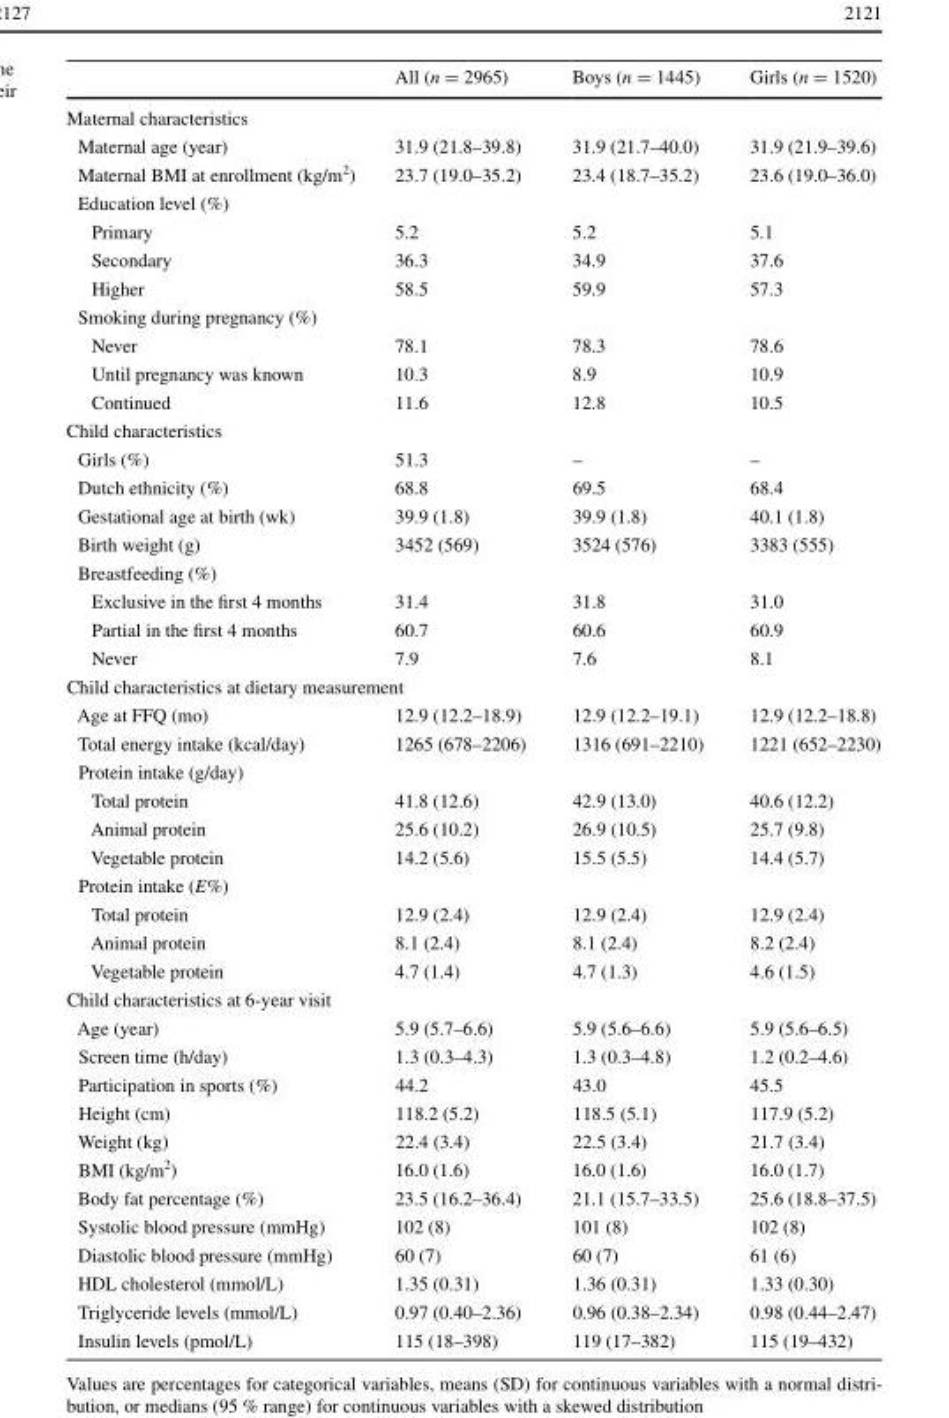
<table><thead><tr><td></td><td>All (n = 2965)</td><td>Boys (n = 1445)</td><td>Girls (n = 1520)</td></tr></thead><tbody><tr><td colspan="4">Maternal characteristics</td></tr><tr><td>Maternal age (year)</td><td>31.9 (21.8–39.8)</td><td>31.9 (21.7–40.0)</td><td>31.9 (21.9–39.6)</td></tr><tr><td>Maternal BMI at enrollment (kg/m<sup>2</sup>)</td><td>23.7 (19.0–35.2)</td><td>23.4 (18.7–35.2)</td><td>23.6 (19.0–36.0)</td></tr><tr><td colspan="4">Education level (%)</td></tr><tr><td>Primary</td><td>5.2</td><td>5.2</td><td>5.1</td></tr><tr><td>Secondary</td><td>36.3</td><td>34.9</td><td>37.6</td></tr><tr><td>Higher</td><td>58.5</td><td>59.9</td><td>57.3</td></tr><tr><td colspan="4">Smoking during pregnancy (%)</td></tr><tr><td>Never</td><td>78.1</td><td>78.3</td><td>78.6</td></tr><tr><td>Until pregnancy was known</td><td>10.3</td><td>8.9</td><td>10.9</td></tr><tr><td>Continued</td><td>11.6</td><td>12.8</td><td>10.5</td></tr><tr><td colspan="4">Child characteristics</td></tr><tr><td>Girls (%)</td><td>51.3</td><td>–</td><td>–</td></tr><tr><td>Dutch ethnicity (%)</td><td>68.8</td><td>69.5</td><td>68.4</td></tr><tr><td>Gestational age at birth (wk)</td><td>39.9 (1.8)</td><td>39.9 (1.8)</td><td>40.1 (1.8)</td></tr><tr><td>Birth weight (g)</td><td>3452 (569)</td><td>3524 (576)</td><td>3383 (555)</td></tr><tr><td colspan="4">Breastfeeding (%)</td></tr><tr><td>Exclusive in the first 4 months</td><td>31.4</td><td>31.8</td><td>31.0</td></tr><tr><td>Partial in the first 4 months</td><td>60.7</td><td>60.6</td><td>60.9</td></tr><tr><td>Never</td><td>7.9</td><td>7.6</td><td>8.1</td></tr><tr><td colspan="4">Child characteristics at dietary measurement</td></tr><tr><td>Age at FFQ (mo)</td><td>12.9 (12.2–18.9)</td><td>12.9 (12.2–19.1)</td><td>12.9 (12.2–18.8)</td></tr><tr><td>Total energy intake (kcal/day)</td><td>1265 (678–2206)</td><td>1316 (691–2210)</td><td>1221 (652–2230)</td></tr><tr><td colspan="4">Protein intake (g/day)</td></tr><tr><td>Total protein</td><td>41.8 (12.6)</td><td>42.9 (13.0)</td><td>40.6 (12.2)</td></tr><tr><td>Animal protein</td><td>25.6 (10.2)</td><td>26.9 (10.5)</td><td>25.7 (9.8)</td></tr><tr><td>Vegetable protein</td><td>14.2 (5.6)</td><td>15.5 (5.5)</td><td>14.4 (5.7)</td></tr><tr><td colspan="4">Protein intake (E%)</td></tr><tr><td>Total protein</td><td>12.9 (2.4)</td><td>12.9 (2.4)</td><td>12.9 (2.4)</td></tr><tr><td>Animal protein</td><td>8.1 (2.4)</td><td>8.1 (2.4)</td><td>8.2 (2.4)</td></tr><tr><td>Vegetable protein</td><td>4.7 (1.4)</td><td>4.7 (1.3)</td><td>4.6 (1.5)</td></tr><tr><td colspan="4">Child characteristics at 6-year visit</td></tr><tr><td>Age (year)</td><td>5.9 (5.7–6.6)</td><td>5.9 (5.6–6.6)</td><td>5.9 (5.6–6.5)</td></tr><tr><td>Screen time (h/day)</td><td>1.3 (0.3–4.3)</td><td>1.3 (0.3–4.8)</td><td>1.2 (0.2–4.6)</td></tr><tr><td>Participation in sports (%)</td><td>44.2</td><td>43.0</td><td>45.5</td></tr><tr><td>Height (cm)</td><td>118.2 (5.2)</td><td>118.5 (5.1)</td><td>117.9 (5.2)</td></tr><tr><td>Weight (kg)</td><td>22.4 (3.4)</td><td>22.5 (3.4)</td><td>21.7 (3.4)</td></tr><tr><td>BMI (kg/m<sup>2</sup>)</td><td>16.0 (1.6)</td><td>16.0 (1.6)</td><td>16.0 (1.7)</td></tr><tr><td>Body fat percentage (%)</td><td>23.5 (16.2–36.4)</td><td>21.1 (15.7–33.5)</td><td>25.6 (18.8–37.5)</td></tr><tr><td>Systolic blood pressure (mmHg)</td><td>102 (8)</td><td>101 (8)</td><td>102 (8)</td></tr><tr><td>Diastolic blood pressure (mmHg)</td><td>60 (7)</td><td>60 (7)</td><td>61 (6)</td></tr><tr><td>HDL cholesterol (mmol/L)</td><td>1.35 (0.31)</td><td>1.36 (0.31)</td><td>1.33 (0.30)</td></tr><tr><td>Triglyceride levels (mmol/L)</td><td>0.97 (0.40–2.36)</td><td>0.96 (0.38–2.34)</td><td>0.98 (0.44–2.47)</td></tr><tr><td>Insulin levels (pmol/L)</td><td>115 (18–398)</td><td>119 (17–382)</td><td>115 (19–432)</td></tr></tbody></table>